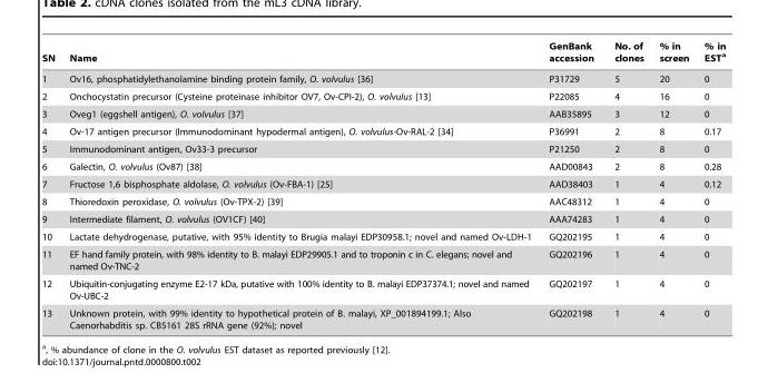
<table><thead><tr><td>SN</td><td>Name</td><td>GenBank accession</td><td>No. of clones</td><td>% in screen</td><td>% in EST<sup>a</sup></td></tr></thead><tbody><tr><td>1</td><td>Ov16, phosphatidylethanolamine binding protein family, O. volvulus [36]</td><td>P31729</td><td>5</td><td>20</td><td>0</td></tr><tr><td>2</td><td>Onchocystatin precursor (Cysteine proteinase inhibitor OV7, Ov-CPI-2), O. volvulus [13]</td><td>P22085</td><td>4</td><td>16</td><td>0</td></tr><tr><td>3</td><td>Oveg1 (eggshell antigen), O. volvulus [37]</td><td>AAB35895</td><td>3</td><td>12</td><td>0</td></tr><tr><td>4</td><td>Ov-17 antigen precursor (Immunodominant hypodermal antigen), O. volvulus-Ov-RAL-2 [34]</td><td>P36991</td><td>2</td><td>8</td><td>0.17</td></tr><tr><td>5</td><td>Immunodominant antigen, Ov33-3 precursor</td><td>P21250</td><td>2</td><td>8</td><td>0</td></tr><tr><td>6</td><td>Galectin, O. volvulus (Ov87) [38]</td><td>AAD00843</td><td>2</td><td>8</td><td>0.28</td></tr><tr><td>7</td><td>Fructose 1,6 bisphosphate aldolase, O. volvulus (Ov-FBA-1) [25]</td><td>AAD38403</td><td>1</td><td>4</td><td>0.12</td></tr><tr><td>8</td><td>Thioredoxin peroxidase, O. volvulus (Ov-TPX-2) [39]</td><td>AAC48312</td><td>1</td><td>4</td><td>0</td></tr><tr><td>9</td><td>Intermediate filament, O. volvulus (OV1CF) [40]</td><td>AAA74283</td><td>1</td><td>4</td><td>0</td></tr><tr><td>10</td><td>Lactate dehydrogenase, putative, with 95% identity to Brugia malayi EDP30958.1; novel and named Ov-LDH-1</td><td>GQ202195</td><td>1</td><td>4</td><td>0</td></tr><tr><td>11</td><td>EF hand family protein, with 98% identity to B. malayi EDP29905.1 and to troponin c in C. elegans; novel and named Ov-TNC-2</td><td>GQ202196</td><td>1</td><td>4</td><td>0</td></tr><tr><td>12</td><td>Ubiquitin-conjugating enzyme E2-17 kDa, putative with 100% identity to B. malayi EDP37374.1; novel and named Ov-UBC-2</td><td>GQ202197</td><td>1</td><td>4</td><td>0</td></tr><tr><td>13</td><td>Unknown protein, with 99% identity to hypothetical protein of B. malayi, XP_001894199.1; Also Caenorhabditis sp. CB5161 28S rRNA gene (92%); novel</td><td>GQ202198</td><td>1</td><td>4</td><td>0</td></tr></tbody></table>